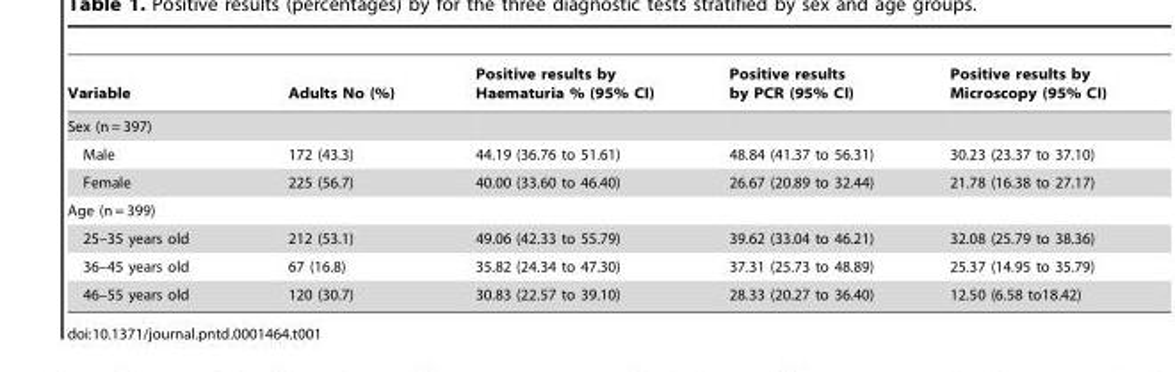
<table><thead><tr><td>Variable</td><td>Adults No (%)</td><td>Positive results by Haematuria % (95% CI)</td><td>Positive results by PCR (95% CI)</td><td>Positive results by Microscopy (95% CI)</td></tr></thead><tbody><tr><td colspan="5">Sex (n = 397)</td></tr><tr><td>Male</td><td>172 (43.3)</td><td>44.19 (36.76 to 51.61)</td><td>48.84 (41.37 to 56.31)</td><td>30.23 (23.37 to 37.10)</td></tr><tr><td>Female</td><td>225 (56.7)</td><td>40.00 (33.60 to 46.40)</td><td>26.67 (20.89 to 32.44)</td><td>21.78 (16.38 to 27.17)</td></tr><tr><td colspan="5">Age (n = 399)</td></tr><tr><td>25–35 years old</td><td>212 (53.1)</td><td>49.06 (42.33 to 55.79)</td><td>39.62 (33.04 to 46.21)</td><td>32.08 (25.79 to 38.36)</td></tr><tr><td>36–45 years old</td><td>67 (16.8)</td><td>35.82 (24.34 to 47.30)</td><td>37.31 (25.73 to 48.89)</td><td>25.37 (14.95 to 35.79)</td></tr><tr><td>46–55 years old</td><td>120 (30.7)</td><td>30.83 (22.57 to 39.10)</td><td>28.33 (20.27 to 36.40)</td><td>12.50 (6.58 to18.42)</td></tr></tbody></table>